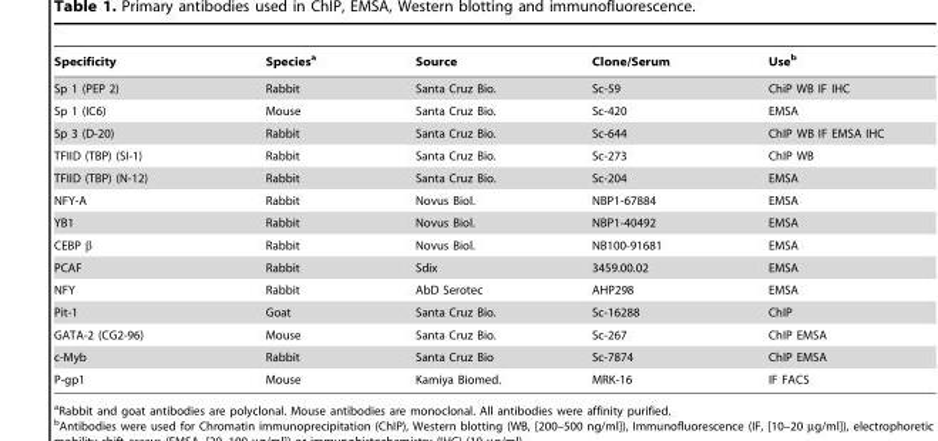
<table><thead><tr><td>Specificity</td><td>Species<sup>a</sup></td><td>Source</td><td>Clone/Serum</td><td>Use<sup>b</sup></td></tr></thead><tbody><tr><td>Sp 1 (PEP 2)</td><td>Rabbit</td><td>Santa Cruz Bio.</td><td>Sc-59</td><td>ChiP WB IF IHC</td></tr><tr><td>Sp 1 (IC6)</td><td>Mouse</td><td>Santa Cruz Bio.</td><td>Sc-420</td><td>EMSA</td></tr><tr><td>Sp 3 (D-20)</td><td>Rabbit</td><td>Santa Cruz Bio.</td><td>Sc-644</td><td>ChIP WB IF EMSA IHC</td></tr><tr><td>TFIID (TBP) (SI-1)</td><td>Rabbit</td><td>Santa Cruz Bio.</td><td>Sc-273</td><td>ChIP WB</td></tr><tr><td>TFIID (TBP) (N-12)</td><td>Rabbit</td><td>Santa Cruz Bio.</td><td>Sc-204</td><td>EMSA</td></tr><tr><td>NFY-A</td><td>Rabbit</td><td>Novus Biol.</td><td>NBP1-67884</td><td>EMSA</td></tr><tr><td>YB1</td><td>Rabbit</td><td>Novus Biol.</td><td>NBP1-40492</td><td>EMSA</td></tr><tr><td>CEBP β</td><td>Rabbit</td><td>Novus Biol.</td><td>NB100-91681</td><td>EMSA</td></tr><tr><td>PCAF</td><td>Rabbit</td><td>Sdix</td><td>3459.00.02</td><td>EMSA</td></tr><tr><td>NFY</td><td>Rabbit</td><td>AbD Serotec</td><td>AHP298</td><td>EMSA</td></tr><tr><td>Pit-1</td><td>Goat</td><td>Santa Cruz Bio.</td><td>Sc-16288</td><td>ChIP</td></tr><tr><td>GATA-2 (CG2-96)</td><td>Mouse</td><td>Santa Cruz Bio.</td><td>Sc-267</td><td>ChIP EMSA</td></tr><tr><td>c-Myb</td><td>Rabbit</td><td>Santa Cruz Bio</td><td>Sc-7874</td><td>ChIP EMSA</td></tr><tr><td>P-gp1</td><td>Mouse</td><td>Kamiya Biomed.</td><td>MRK-16</td><td>IF FACS</td></tr></tbody></table>